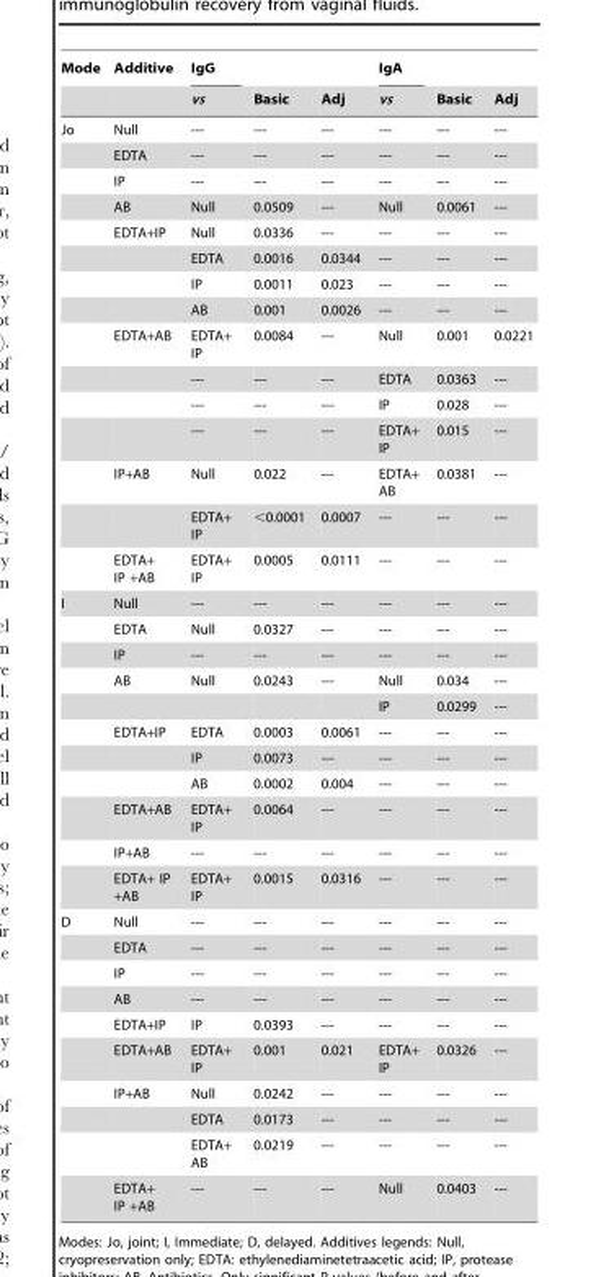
<table><thead><tr><td rowspan="2">Mode</td><td rowspan="2">Additive</td><td rowspan="2">IgG vs</td><td rowspan="2">Basic</td><td rowspan="2">Adj</td><td rowspan="2">IgA vs</td><td rowspan="2">Basic</td><td rowspan="2">Adj</td></tr><tr></tr></thead><tbody><tr><td rowspan="15">Jo</td><td>Null</td><td>---</td><td>---</td><td>---</td><td>---</td><td>---</td><td>---</td></tr><tr><td>EDTA</td><td>---</td><td>---</td><td>---</td><td>---</td><td>---</td><td>---</td></tr><tr><td>IP</td><td>---</td><td>---</td><td>---</td><td>---</td><td>---</td><td>---</td></tr><tr><td>AB</td><td>Null</td><td>0.0509</td><td>---</td><td>Null</td><td>0.0061</td><td>---</td></tr><tr><td>EDTA+IP</td><td>Null</td><td>0.0336</td><td>---</td><td>---</td><td>---</td><td>---</td></tr><tr><td></td><td>EDTA</td><td>0.0016</td><td>0.0344</td><td>---</td><td>---</td><td>---</td></tr><tr><td></td><td>IP</td><td>0.0011</td><td>0.023</td><td>---</td><td>---</td><td>---</td></tr><tr><td></td><td>AB</td><td>0.001</td><td>0.0026</td><td>---</td><td>---</td><td>---</td></tr><tr><td>EDTA+AB</td><td>EDTA+ IP</td><td>0.0084</td><td>---</td><td>Null</td><td>0.001</td><td>0.0221</td></tr><tr><td></td><td>---</td><td>---</td><td>---</td><td>EDTA</td><td>0.0363</td><td>---</td></tr><tr><td></td><td>---</td><td>---</td><td>---</td><td>IP</td><td>0.028</td><td>---</td></tr><tr><td></td><td>---</td><td>---</td><td>---</td><td>EDTA+ IP</td><td>0.015</td><td>---</td></tr><tr><td>IP+AB</td><td>Null</td><td>0.022</td><td>---</td><td>EDTA+ AB</td><td>0.0381</td><td>---</td></tr><tr><td></td><td>EDTA+ IP</td><td>&lt;0.0001</td><td>0.0007</td><td>---</td><td>---</td><td>---</td></tr><tr><td>EDTA+ IP +AB</td><td>EDTA+ IP</td><td>0.0005</td><td>0.0111</td><td>---</td><td>---</td><td>---</td></tr><tr><td rowspan="11">I</td><td>Null</td><td>---</td><td>---</td><td>---</td><td>---</td><td>---</td><td>---</td></tr><tr><td>EDTA</td><td>Null</td><td>0.0327</td><td>---</td><td>---</td><td>---</td><td>---</td></tr><tr><td>IP</td><td>---</td><td>---</td><td>---</td><td>---</td><td>---</td><td>---</td></tr><tr><td>AB</td><td>Null</td><td>0.0243</td><td>---</td><td>Null</td><td>0.034</td><td>---</td></tr><tr><td></td><td></td><td></td><td></td><td>IP</td><td>0.0299</td><td>---</td></tr><tr><td>EDTA+IP</td><td>EDTA</td><td>0.0003</td><td>0.0061</td><td>---</td><td>---</td><td>---</td></tr><tr><td></td><td>IP</td><td>0.0073</td><td>---</td><td>---</td><td>---</td><td>---</td></tr><tr><td></td><td>AB</td><td>0.0002</td><td>0.004</td><td>---</td><td>---</td><td>---</td></tr><tr><td>EDTA+AB</td><td>EDTA+ IP</td><td>0.0064</td><td>---</td><td>---</td><td>---</td><td>---</td></tr><tr><td>IP+AB</td><td>---</td><td>---</td><td>---</td><td>---</td><td>---</td><td>---</td></tr><tr><td>EDTA+ IP +AB</td><td>EDTA+ IP</td><td>0.0015</td><td>0.0316</td><td>---</td><td>---</td><td>---</td></tr><tr><td rowspan="10">D</td><td>Null</td><td>---</td><td>---</td><td>---</td><td>---</td><td>---</td><td>---</td></tr><tr><td>EDTA</td><td>---</td><td>---</td><td>---</td><td>---</td><td>---</td><td>---</td></tr><tr><td>IP</td><td>---</td><td>---</td><td>---</td><td>---</td><td>---</td><td>---</td></tr><tr><td>AB</td><td>---</td><td>---</td><td>---</td><td>---</td><td>---</td><td>---</td></tr><tr><td>EDTA+IP</td><td>IP</td><td>0.0393</td><td>---</td><td>---</td><td>---</td><td>---</td></tr><tr><td>EDTA+AB</td><td>EDTA+ IP</td><td>0.001</td><td>0.021</td><td>EDTA+ IP</td><td>0.0326</td><td>---</td></tr><tr><td>IP+AB</td><td>Null</td><td>0.0242</td><td>---</td><td>---</td><td>---</td><td>---</td></tr><tr><td></td><td>EDTA</td><td>0.0173</td><td>---</td><td>---</td><td>---</td><td>---</td></tr><tr><td></td><td>EDTA+ AB</td><td>0.0219</td><td>---</td><td>---</td><td>---</td><td>---</td></tr><tr><td>EDTA+ IP +AB</td><td>---</td><td>---</td><td>---</td><td>Null</td><td>0.0403</td><td>---</td></tr></tbody></table>